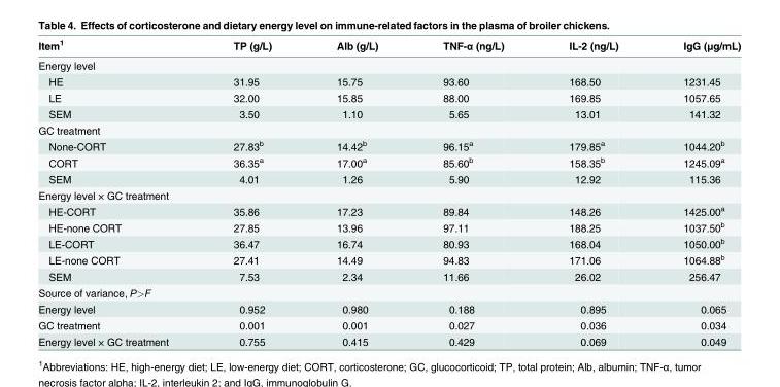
<table><thead><tr><td>Item<sup>1</sup></td><td>TP (g/L)</td><td>Alb (g/L)</td><td>TNF-α (ng/L)</td><td>IL-2 (ng/L)</td><td>IgG (μg/mL)</td></tr></thead><tbody><tr><td colspan="6">Energy level</td></tr><tr><td>HE</td><td>31.95</td><td>15.75</td><td>93.60</td><td>168.50</td><td>1231.45</td></tr><tr><td>LE</td><td>32.00</td><td>15.85</td><td>88.00</td><td>169.85</td><td>1057.65</td></tr><tr><td>SEM</td><td>3.50</td><td>1.10</td><td>5.65</td><td>13.01</td><td>141.32</td></tr><tr><td colspan="6">GC treatment</td></tr><tr><td>None-CORT</td><td>27.83<sup>b</sup></td><td>14.42<sup>b</sup></td><td>96.15<sup>a</sup></td><td>179.85<sup>a</sup></td><td>1044.20<sup>b</sup></td></tr><tr><td>CORT</td><td>36.35<sup>a</sup></td><td>17.00<sup>a</sup></td><td>85.60<sup>b</sup></td><td>158.35<sup>b</sup></td><td>1245.09<sup>a</sup></td></tr><tr><td>SEM</td><td>4.01</td><td>1.26</td><td>5.90</td><td>12.92</td><td>115.36</td></tr><tr><td colspan="6">Energy level × GC treatment</td></tr><tr><td>HE-CORT</td><td>35.86</td><td>17.23</td><td>89.84</td><td>148.26</td><td>1425.00<sup>a</sup></td></tr><tr><td>HE-none CORT</td><td>27.85</td><td>13.96</td><td>97.11</td><td>188.25</td><td>1037.50<sup>b</sup></td></tr><tr><td>LE-CORT</td><td>36.47</td><td>16.74</td><td>80.93</td><td>168.04</td><td>1050.00<sup>b</sup></td></tr><tr><td>LE-none CORT</td><td>27.41</td><td>14.49</td><td>94.83</td><td>171.06</td><td>1064.88<sup>b</sup></td></tr><tr><td>SEM</td><td>7.53</td><td>2.34</td><td>11.66</td><td>26.02</td><td>256.47</td></tr><tr><td colspan="6">Source of variance, P&gt;F</td></tr><tr><td>Energy level</td><td>0.952</td><td>0.980</td><td>0.188</td><td>0.895</td><td>0.065</td></tr><tr><td>GC treatment</td><td>0.001</td><td>0.001</td><td>0.027</td><td>0.036</td><td>0.034</td></tr><tr><td>Energy level × GC treatment</td><td>0.755</td><td>0.415</td><td>0.429</td><td>0.069</td><td>0.049</td></tr></tbody></table>